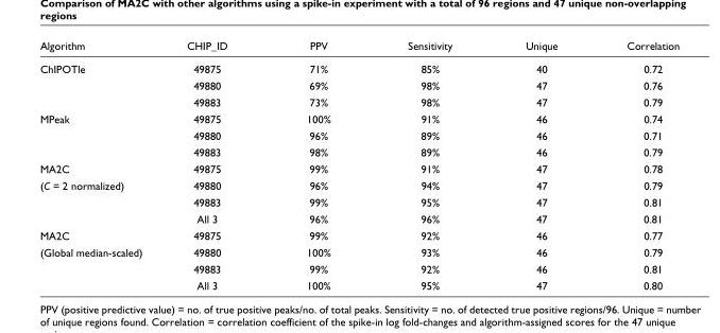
<table><thead><tr><td>Algorithm</td><td>CHIP_ID</td><td>PPV</td><td>Sensitivity</td><td>Unique</td><td>Correlation</td></tr></thead><tbody><tr><td rowspan="3">ChIPOTle</td><td>49875</td><td>71%</td><td>85%</td><td>40</td><td>0.72</td></tr><tr><td>49880</td><td>69%</td><td>98%</td><td>47</td><td>0.76</td></tr><tr><td>49883</td><td>73%</td><td>98%</td><td>47</td><td>0.79</td></tr><tr><td rowspan="3">MPeak</td><td>49875</td><td>100%</td><td>91%</td><td>46</td><td>0.74</td></tr><tr><td>49880</td><td>96%</td><td>89%</td><td>46</td><td>0.71</td></tr><tr><td>49883</td><td>98%</td><td>89%</td><td>46</td><td>0.79</td></tr><tr><td>MA2C</td><td>49875</td><td>99%</td><td>91%</td><td>47</td><td>0.78</td></tr><tr><td rowspan="3">(C = 2 normalized)</td><td>49880</td><td>96%</td><td>94%</td><td>47</td><td>0.79</td></tr><tr><td>49883</td><td>99%</td><td>95%</td><td>47</td><td>0.81</td></tr><tr><td>All 3</td><td>96%</td><td>96%</td><td>47</td><td>0.81</td></tr><tr><td>MA2C</td><td>49875</td><td>99%</td><td>92%</td><td>46</td><td>0.77</td></tr><tr><td rowspan="3">(Global median-scaled)</td><td>49880</td><td>100%</td><td>93%</td><td>46</td><td>0.79</td></tr><tr><td>49883</td><td>99%</td><td>92%</td><td>46</td><td>0.81</td></tr><tr><td>All 3</td><td>100%</td><td>95%</td><td>47</td><td>0.80</td></tr></tbody></table>